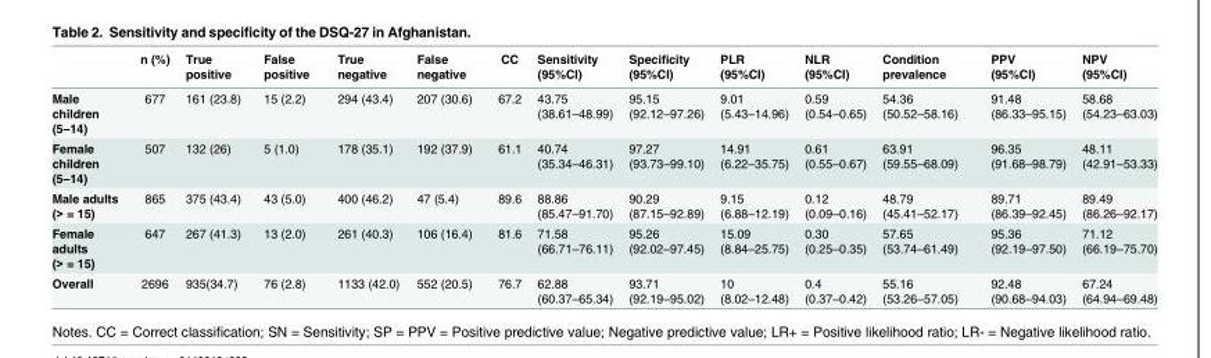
<table><thead><tr><td></td><td>n (%)</td><td>True positive</td><td>False positive</td><td>True negative</td><td>False negative</td><td>CC</td><td>Sensitivity (95%CI)</td><td>Specificity (95%CI)</td><td>PLR (95%CI)</td><td>NLR (95%CI)</td><td>Condition prevalence</td><td>PPV (95%CI)</td><td>NPV (95%CI)</td></tr></thead><tbody><tr><td>Male children (5–14)</td><td>677</td><td>161 (23.8)</td><td>15 (2.2)</td><td>294 (43.4)</td><td>207 (30.6)</td><td>67.2</td><td>43.75 (38.61–48.99)</td><td>95.15 (92.12–97.26)</td><td>9.01 (5.43–14.96)</td><td>0.59 (0.54–0.65)</td><td>54.36 (50.52–58.16)</td><td>91.48 (86.33–95.15)</td><td>58.68 (54.23–63.03)</td></tr><tr><td>Female children (5–14)</td><td>507</td><td>132 (26)</td><td>5 (1.0)</td><td>178 (35.1)</td><td>192 (37.9)</td><td>61.1</td><td>40.74 (35.34–46.31)</td><td>97.27 (93.73–99.10)</td><td>14.91 (6.22–35.75)</td><td>0.61 (0.55–0.67)</td><td>63.91 (59.55–68.09)</td><td>96.35 (91.68–98.79)</td><td>48.11 (42.91–53.33)</td></tr><tr><td>Male adults (&gt; = 15)</td><td>865</td><td>375 (43.4)</td><td>43 (5.0)</td><td>400 (46.2)</td><td>47 (5.4)</td><td>89.6</td><td>88.86 (85.47–91.70)</td><td>90.29 (87.15–92.89)</td><td>9.15 (6.88–12.19)</td><td>0.12 (0.09–0.16)</td><td>48.79 (45.41–52.17)</td><td>89.71 (86.39–92.45)</td><td>89.49 (86.26–92.17)</td></tr><tr><td>Female adults (&gt; = 15)</td><td>647</td><td>267 (41.3)</td><td>13 (2.0)</td><td>261 (40.3)</td><td>106 (16.4)</td><td>81.6</td><td>71.58 (66.71–76.11)</td><td>95.26 (92.02–97.45)</td><td>15.09 (8.84–25.75)</td><td>0.30 (0.25–0.35)</td><td>57.65 (53.74–61.49)</td><td>95.36 (92.19–97.50)</td><td>71.12 (66.19–75.70)</td></tr><tr><td>Overall</td><td>2696</td><td>935(34.7)</td><td>76 (2.8)</td><td>1133 (42.0)</td><td>552 (20.5)</td><td>76.7</td><td>62.88 (60.37–65.34)</td><td>93.71 (92.19–95.02)</td><td>10 (8.02–12.48)</td><td>0.4 (0.37–0.42)</td><td>55.16 (53.26–57.05)</td><td>92.48 (90.68–94.03)</td><td>67.24 (64.94–69.48)</td></tr></tbody></table>